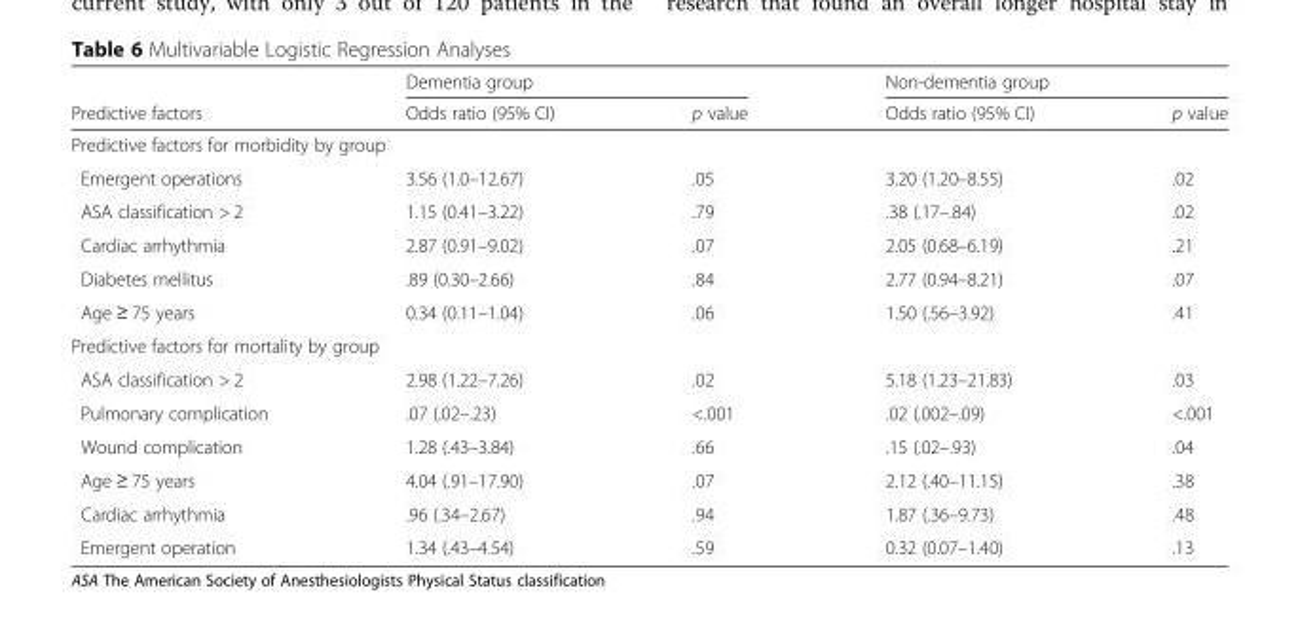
<table><thead><tr><td rowspan="2">Predictive factors</td><td colspan="2">Dementia group</td><td colspan="2">Non-dementia group</td></tr><tr><td>Odds ratio (95% CI)</td><td>p value</td><td>Odds ratio (95% CI)</td><td>p value</td></tr></thead><tbody><tr><td colspan="5">Predictive factors for morbidity by group</td></tr><tr><td>Emergent operations</td><td>3.56 (1.0–12.67)</td><td>.05</td><td>3.20 (1.20–8.55)</td><td>.02</td></tr><tr><td>ASA classification &gt; 2</td><td>1.15 (0.41–3.22)</td><td>.79</td><td>.38 (.17–.84)</td><td>.02</td></tr><tr><td>Cardiac arrhythmia</td><td>2.87 (0.91–9.02)</td><td>.07</td><td>2.05 (0.68–6.19)</td><td>.21</td></tr><tr><td>Diabetes mellitus</td><td>.89 (0.30–2.66)</td><td>.84</td><td>2.77 (0.94–8.21)</td><td>.07</td></tr><tr><td>Age ≥ 75 years</td><td>0.34 (0.11–1.04)</td><td>.06</td><td>1.50 (.56–3.92)</td><td>.41</td></tr><tr><td colspan="5">Predictive factors for mortality by group</td></tr><tr><td>ASA classification &gt; 2</td><td>2.98 (1.22–7.26)</td><td>.02</td><td>5.18 (1.23–21.83)</td><td>.03</td></tr><tr><td>Pulmonary complication</td><td>.07 (.02–.23)</td><td>&lt;.001</td><td>.02 (.002–.09)</td><td>&lt;.001</td></tr><tr><td>Wound complication</td><td>1.28 (.43–3.84)</td><td>.66</td><td>.15 (.02–.93)</td><td>.04</td></tr><tr><td>Age ≥ 75 years</td><td>4.04 (.91–17.90)</td><td>.07</td><td>2.12 (.40–11.15)</td><td>.38</td></tr><tr><td>Cardiac arrhythmia</td><td>.96 (.34–2.67)</td><td>.94</td><td>1.87 (.36–9.73)</td><td>.48</td></tr><tr><td>Emergent operation</td><td>1.34 (.43–4.54)</td><td>.59</td><td>0.32 (0.07–1.40)</td><td>.13</td></tr></tbody></table>